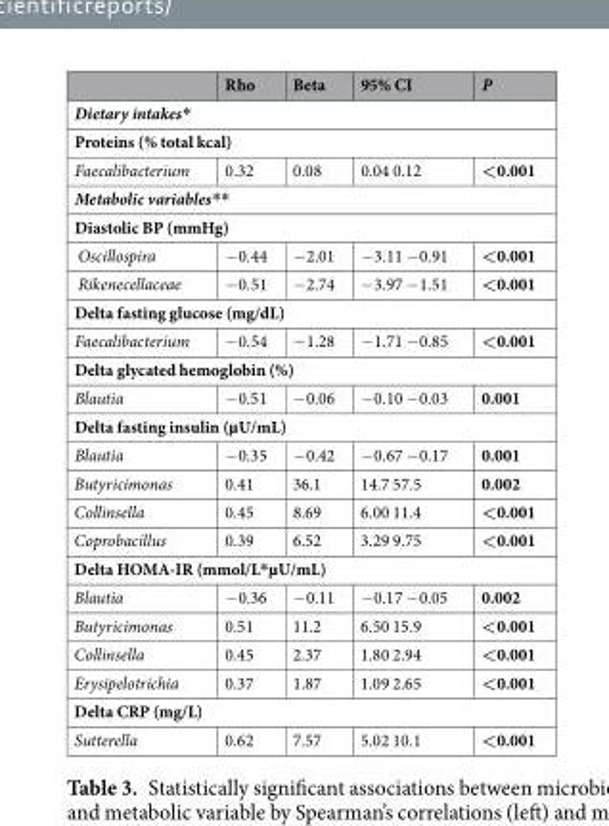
<table><thead><tr><td></td><td>Rho</td><td>Beta</td><td>95% CI</td><td>P</td></tr></thead><tbody><tr><td colspan="5">Dietary intakes*</td></tr><tr><td colspan="5">Proteins (% total kcal)</td></tr><tr><td>Faecalibacterium</td><td>0.32</td><td>0.08</td><td>0.04 0.12</td><td>&lt;0.001</td></tr><tr><td colspan="5">Metabolic variables**</td></tr><tr><td colspan="5">Diastolic BP (mmHg)</td></tr><tr><td>Oscillospira</td><td>−0.44</td><td>−2.01</td><td>−3.11 −0.91</td><td>&lt;0.001</td></tr><tr><td>Rikenecellaceae</td><td>−0.51</td><td>−2.74</td><td>−3.97 −1.51</td><td>&lt;0.001</td></tr><tr><td colspan="5">Delta fasting glucose (mg/dL)</td></tr><tr><td>Faecalibacterium</td><td>−0.54</td><td>−1.28</td><td>−1.71 −0.85</td><td>&lt;0.001</td></tr><tr><td colspan="5">Delta glycated hemoglobin (%)</td></tr><tr><td>Blautia</td><td>−0.51</td><td>−0.06</td><td>−0.10 −0.03</td><td>0.001</td></tr><tr><td colspan="5">Delta fasting insulin (µU/mL)</td></tr><tr><td>Blautia</td><td>−0.35</td><td>−0.42</td><td>−0.67 −0.17</td><td>0.001</td></tr><tr><td>Butyricimonas</td><td>0.41</td><td>36.1</td><td>14.7 57.5</td><td>0.002</td></tr><tr><td>Collinsella</td><td>0.45</td><td>8.69</td><td>6.00 11.4</td><td>&lt;0.001</td></tr><tr><td>Coprobacillus</td><td>0.39</td><td>6.52</td><td>3.29 9.75</td><td>&lt;0.001</td></tr><tr><td colspan="5">Delta HOMA-IR (mmol/L*µU/mL)</td></tr><tr><td>Blautia</td><td>−0.36</td><td>−0.11</td><td>−0.17 −0.05</td><td>0.002</td></tr><tr><td>Butyricimonas</td><td>0.51</td><td>11.2</td><td>6.50 15.9</td><td>&lt;0.001</td></tr><tr><td>Collinsella</td><td>0.45</td><td>2.37</td><td>1.80 2.94</td><td>&lt;0.001</td></tr><tr><td>Erysipelotrichia</td><td>0.37</td><td>1.87</td><td>1.09 2.65</td><td>&lt;0.001</td></tr><tr><td colspan="5">Delta CRP (mg/L)</td></tr><tr><td>Sutterella</td><td>0.62</td><td>7.57</td><td>5.02 10.1</td><td>&lt;0.001</td></tr></tbody></table>